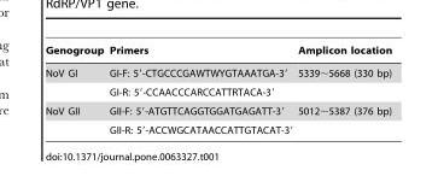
<table><thead><tr><td>Genogroup</td><td>Primers</td><td>Amplicon location</td></tr></thead><tbody><tr><td rowspan="2">NoV GI</td><td>GI-F: 5′-CTGCCCGAWTWYGTAAATGA-3′</td><td>5339∼5668 (330 bp)</td></tr><tr><td>GI-R: 5′-CCAACCCARCCATTRTACA-3′</td><td></td></tr><tr><td rowspan="2">NoV GII</td><td>GII-F: 5′-ATGTTCAGGTGGATGAGATT-3′</td><td>5012∼5387 (376 bp)</td></tr><tr><td>GII-R: 5′-ACCWGCATAACCATTGTACAT-3′</td><td></td></tr></tbody></table>